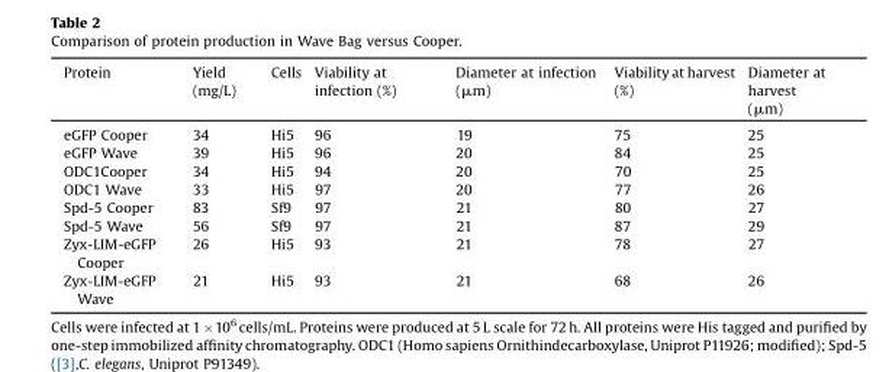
<table><thead><tr><td>Protein</td><td>Yield (mg/L)</td><td>Cells</td><td>Viability at infection (%)</td><td>Diameter at infection (μm)</td><td>Viability at harvest (%)</td><td>Diameter at harvest (μm)</td></tr></thead><tbody><tr><td>eGFP Cooper</td><td>34</td><td>Hi5</td><td>96</td><td>19</td><td>75</td><td>25</td></tr><tr><td>eGFP Wave</td><td>39</td><td>Hi5</td><td>96</td><td>20</td><td>84</td><td>25</td></tr><tr><td>ODC1Cooper</td><td>34</td><td>Hi5</td><td>94</td><td>20</td><td>70</td><td>25</td></tr><tr><td>ODC1 Wave</td><td>33</td><td>Hi5</td><td>97</td><td>20</td><td>77</td><td>26</td></tr><tr><td>Spd-5 Cooper</td><td>83</td><td>Sf9</td><td>97</td><td>21</td><td>80</td><td>27</td></tr><tr><td>Spd-5 Wave</td><td>56</td><td>Sf9</td><td>97</td><td>21</td><td>87</td><td>29</td></tr><tr><td>Zyx-LIM-eGFP Cooper</td><td>26</td><td>Hi5</td><td>93</td><td>21</td><td>78</td><td>27</td></tr><tr><td>Zyx-LIM-eGFP Wave</td><td>21</td><td>Hi5</td><td>93</td><td>21</td><td>68</td><td>26</td></tr></tbody></table>